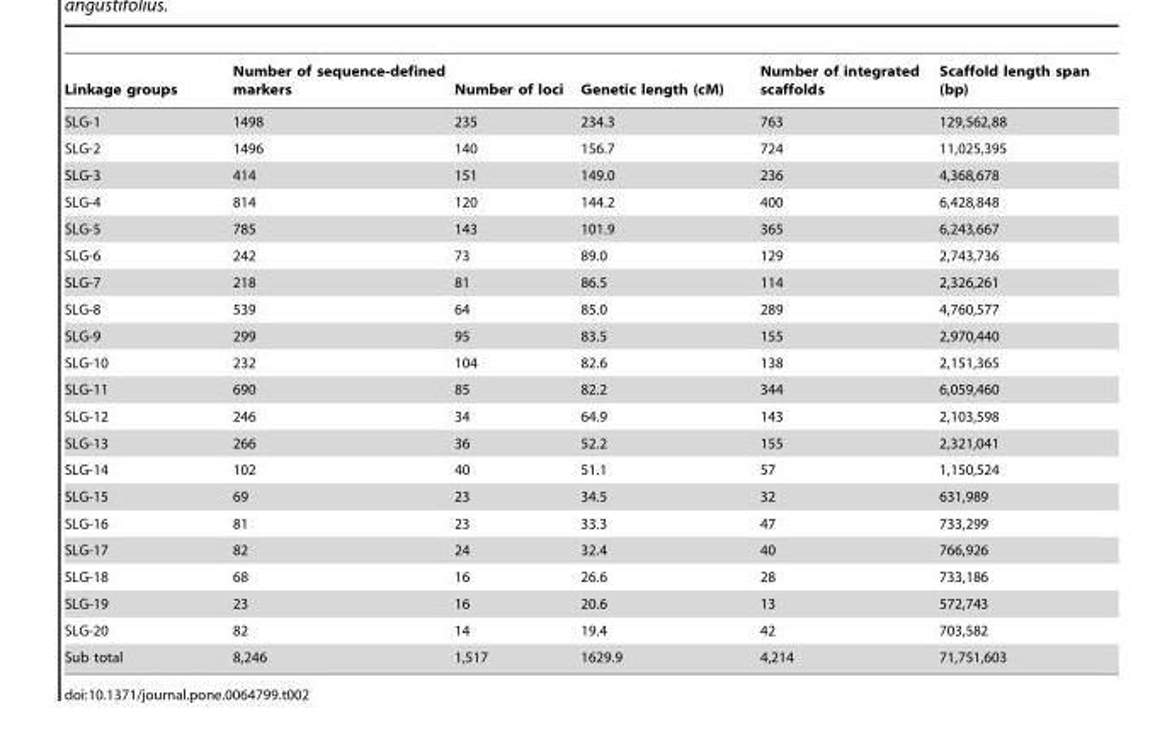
<table><thead><tr><td>Linkage groups</td><td>Number of sequence-defined markers</td><td>Number of loci</td><td>Genetic length (cM)</td><td>Number of integrated scaffolds</td><td>Scaffold length span (bp)</td></tr></thead><tbody><tr><td>SLG-1</td><td>1498</td><td>235</td><td>234.3</td><td>763</td><td>129,562,88</td></tr><tr><td>SLG-2</td><td>1496</td><td>140</td><td>156.7</td><td>724</td><td>11,025,395</td></tr><tr><td>SLG-3</td><td>414</td><td>151</td><td>149.0</td><td>236</td><td>4,368,678</td></tr><tr><td>SLG-4</td><td>814</td><td>120</td><td>144.2</td><td>400</td><td>6,428,848</td></tr><tr><td>SLG-5</td><td>785</td><td>143</td><td>101.9</td><td>365</td><td>6,243,667</td></tr><tr><td>SLG-6</td><td>242</td><td>73</td><td>89.0</td><td>129</td><td>2,743,736</td></tr><tr><td>SLG-7</td><td>218</td><td>81</td><td>86.5</td><td>114</td><td>2,326,261</td></tr><tr><td>SLG-8</td><td>539</td><td>64</td><td>85.0</td><td>289</td><td>4,760,577</td></tr><tr><td>SLG-9</td><td>299</td><td>95</td><td>83.5</td><td>155</td><td>2,970,440</td></tr><tr><td>SLG-10</td><td>232</td><td>104</td><td>82.6</td><td>138</td><td>2,151,365</td></tr><tr><td>SLG-11</td><td>690</td><td>85</td><td>82.2</td><td>344</td><td>6,059,460</td></tr><tr><td>SLG-12</td><td>246</td><td>34</td><td>64.9</td><td>143</td><td>2,103,598</td></tr><tr><td>SLG-13</td><td>266</td><td>36</td><td>52.2</td><td>155</td><td>2,321,041</td></tr><tr><td>SLG-14</td><td>102</td><td>40</td><td>51.1</td><td>57</td><td>1,150,524</td></tr><tr><td>SLG-15</td><td>69</td><td>23</td><td>34.5</td><td>32</td><td>631,989</td></tr><tr><td>SLG-16</td><td>81</td><td>23</td><td>33.3</td><td>47</td><td>733,299</td></tr><tr><td>SLG-17</td><td>82</td><td>24</td><td>32.4</td><td>40</td><td>766,926</td></tr><tr><td>SLG-18</td><td>68</td><td>16</td><td>26.6</td><td>28</td><td>733,186</td></tr><tr><td>SLG-19</td><td>23</td><td>16</td><td>20.6</td><td>13</td><td>572,743</td></tr><tr><td>SLG-20</td><td>82</td><td>14</td><td>19.4</td><td>42</td><td>703,582</td></tr><tr><td>Sub total</td><td>8,246</td><td>1,517</td><td>1629.9</td><td>4,214</td><td>71,751,603</td></tr></tbody></table>